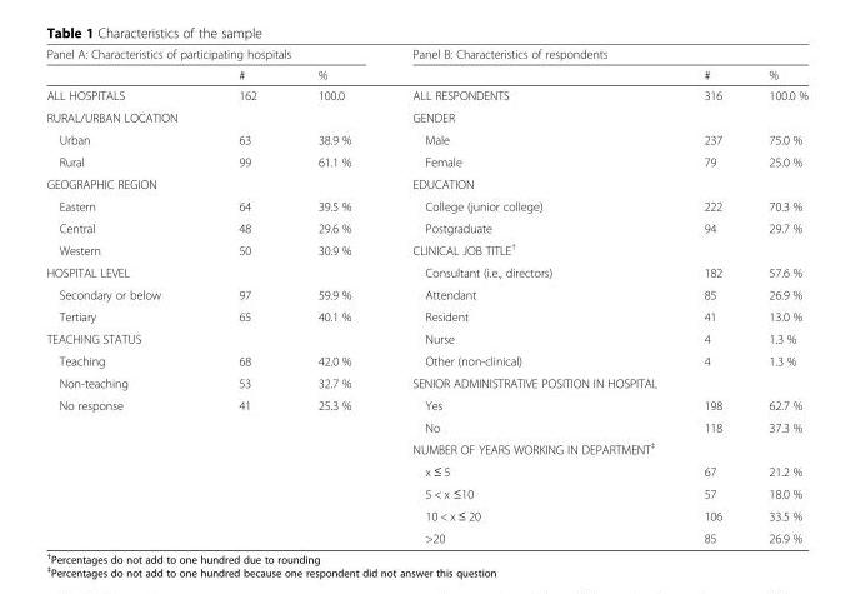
<table><thead><tr><td colspan="3">Panel A: Characteristics of participating hospitals</td><td colspan="3">Panel B: Characteristics of respondents</td></tr><tr><td></td><td>#</td><td>%</td><td></td><td>#</td><td>%</td></tr></thead><tbody><tr><td>ALL HOSPITALS</td><td>162</td><td>100.0</td><td>ALL RESPONDENTS</td><td>316</td><td>100.0 %</td></tr><tr><td>RURAL/URBAN LOCATION</td><td></td><td></td><td>GENDER</td><td></td><td></td></tr><tr><td>Urban</td><td>63</td><td>38.9 %</td><td>Male</td><td>237</td><td>75.0 %</td></tr><tr><td>Rural</td><td>99</td><td>61.1 %</td><td>Female</td><td>79</td><td>25.0 %</td></tr><tr><td>GEOGRAPHIC REGION</td><td></td><td></td><td>EDUCATION</td><td></td><td></td></tr><tr><td>Eastern</td><td>64</td><td>39.5 %</td><td>College (junior college)</td><td>222</td><td>70.3 %</td></tr><tr><td>Central</td><td>48</td><td>29.6 %</td><td>Postgraduate</td><td>94</td><td>29.7 %</td></tr><tr><td>Western</td><td>50</td><td>30.9 %</td><td>CLINICAL JOB TITLE<sup>†</sup></td><td></td><td></td></tr><tr><td>HOSPITAL LEVEL</td><td></td><td></td><td>Consultant (i.e., directors)</td><td>182</td><td>57.6 %</td></tr><tr><td>Secondary or below</td><td>97</td><td>59.9 %</td><td>Attendant</td><td>85</td><td>26.9 %</td></tr><tr><td>Tertiary</td><td>65</td><td>40.1 %</td><td>Resident</td><td>41</td><td>13.0 %</td></tr><tr><td>TEACHING STATUS</td><td></td><td></td><td>Nurse</td><td>4</td><td>1.3 %</td></tr><tr><td>Teaching</td><td>68</td><td>42.0 %</td><td>Other (non-clinical)</td><td>4</td><td>1.3 %</td></tr><tr><td>Non-teaching</td><td>53</td><td>32.7 %</td><td>SENIOR ADMINISTRATIVE POSITION IN HOSPITAL</td><td></td><td></td></tr><tr><td>No response</td><td>41</td><td>25.3 %</td><td>Yes</td><td>198</td><td>62.7 %</td></tr><tr><td rowspan="6" colspan="3"></td><td>No</td><td>118</td><td>37.3 %</td></tr><tr><td>NUMBER OF YEARS WORKING IN DEPARTMENT<sup>‡</sup></td><td></td><td></td></tr><tr><td>x ≤ 5</td><td>67</td><td>21.2 %</td></tr><tr><td>5 &lt; x ≤10</td><td>57</td><td>18.0 %</td></tr><tr><td>10 &lt; x ≤ 20</td><td>106</td><td>33.5 %</td></tr><tr><td>&gt;20</td><td>85</td><td>26.9 %</td></tr></tbody></table>